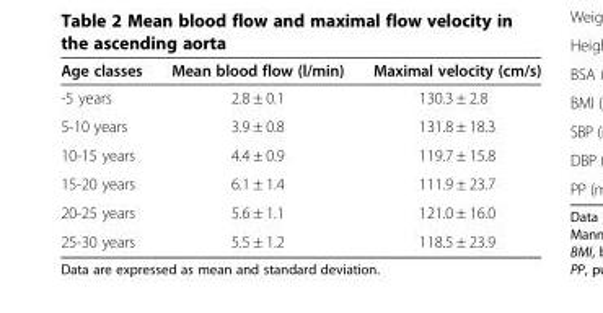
<table><thead><tr><td>Age classes</td><td>Mean blood flow (l/min)</td><td>Maximal velocity (cm/s)</td></tr></thead><tbody><tr><td>-5 years</td><td>2.8 ± 0.1</td><td>130.3 ± 2.8</td></tr><tr><td>5-10 years</td><td>3.9 ± 0.8</td><td>131.8 ± 18.3</td></tr><tr><td>10-15 years</td><td>4.4 ± 0.9</td><td>119.7 ± 15.8</td></tr><tr><td>15-20 years</td><td>6.1 ± 1.4</td><td>111.9 ± 23.7</td></tr><tr><td>20-25 years</td><td>5.6 ± 1.1</td><td>121.0 ± 16.0</td></tr><tr><td>25-30 years</td><td>5.5 ± 1.2</td><td>118.5 ± 23.9</td></tr></tbody></table>